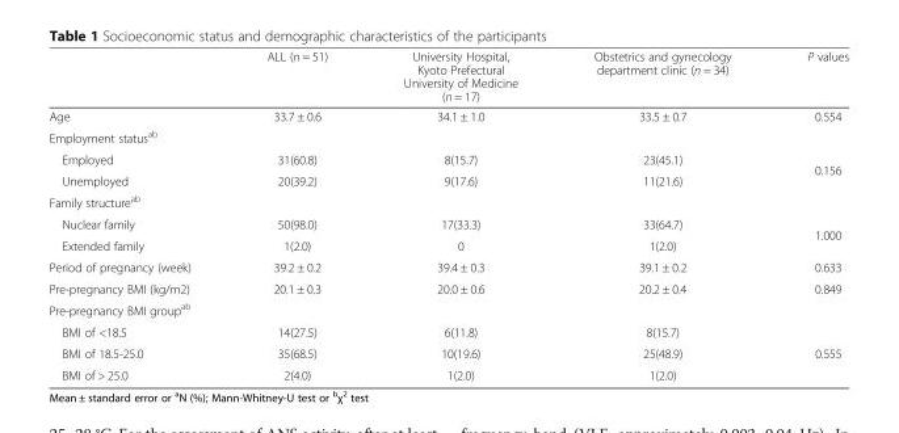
<table><thead><tr><td></td><td>ALL (n = 51)</td><td>University Hospital, Kyoto Prefectural University of Medicine (n = 17)</td><td>Obstetrics and gynecology department clinic (n = 34)</td><td>P values</td></tr></thead><tbody><tr><td>Age</td><td>33.7 ± 0.6</td><td>34.1 ± 1.0</td><td>33.5 ± 0.7</td><td>0.554</td></tr><tr><td colspan="5">Employment status<sup>ab</sup></td></tr><tr><td>Employed</td><td>31(60.8)</td><td>8(15.7)</td><td>23(45.1)</td><td rowspan="2">0.156</td></tr><tr><td>Unemployed</td><td>20(39.2)</td><td>9(17.6)</td><td>11(21.6)</td></tr><tr><td colspan="5">Family structure<sup>ab</sup></td></tr><tr><td>Nuclear family</td><td>50(98.0)</td><td>17(33.3)</td><td>33(64.7)</td><td rowspan="2">1.000</td></tr><tr><td>Extended family</td><td>1(2.0)</td><td>0</td><td>1(2.0)</td></tr><tr><td>Period of pregnancy (week)</td><td>39.2 ± 0.2</td><td>39.4 ± 0.3</td><td>39.1 ± 0.2</td><td>0.633</td></tr><tr><td>Pre-pregnancy BMI (kg/m2)</td><td>20.1 ± 0.3</td><td>20.0 ± 0.6</td><td>20.2 ± 0.4</td><td>0.849</td></tr><tr><td colspan="5">Pre-pregnancy BMI group<sup>ab</sup></td></tr><tr><td>BMI of &lt;18.5</td><td>14(27.5)</td><td>6(11.8)</td><td>8(15.7)</td><td rowspan="3">0.555</td></tr><tr><td>BMI of 18.5-25.0</td><td>35(68.5)</td><td>10(19.6)</td><td>25(48.9)</td></tr><tr><td>BMI of &gt; 25.0</td><td>2(4.0)</td><td>1(2.0)</td><td>1(2.0)</td></tr></tbody></table>